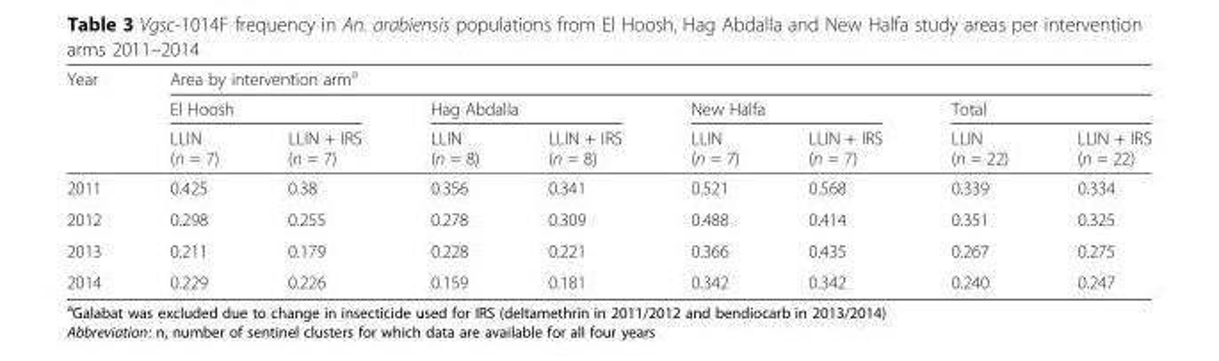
<table><thead><tr><td rowspan="3">Year</td><td colspan="8">Area by intervention arm<sup>a</sup></td></tr><tr><td colspan="2">El Hoosh</td><td colspan="2">Hag Abdalla</td><td colspan="2">New Halfa</td><td colspan="2">Total</td></tr><tr><td>LLIN (n = 7)</td><td>LLIN + IRS (n = 7)</td><td>LLIN (n = 8)</td><td>LLIN + IRS (n = 8)</td><td>LLIN (n = 7)</td><td>LLIN + IRS (n = 7)</td><td>LLIN (n = 22)</td><td>LLIN + IRS (n = 22)</td></tr></thead><tbody><tr><td>2011</td><td>0.425</td><td>0.38</td><td>0.356</td><td>0.341</td><td>0.521</td><td>0.568</td><td>0.339</td><td>0.334</td></tr><tr><td>2012</td><td>0.298</td><td>0.255</td><td>0.278</td><td>0.309</td><td>0.488</td><td>0.414</td><td>0.351</td><td>0.325</td></tr><tr><td>2013</td><td>0.211</td><td>0.179</td><td>0.228</td><td>0.221</td><td>0.366</td><td>0.435</td><td>0.267</td><td>0.275</td></tr><tr><td>2014</td><td>0.229</td><td>0.226</td><td>0.159</td><td>0.181</td><td>0.342</td><td>0.342</td><td>0.240</td><td>0.247</td></tr></tbody></table>